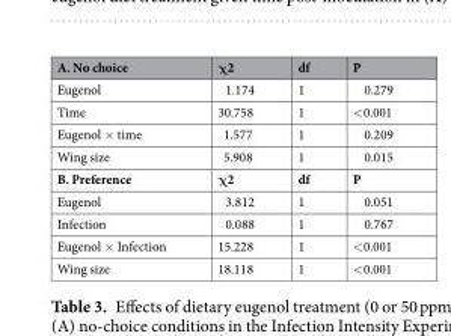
<table><thead><tr><td>A. No choice</td><td>χ2</td><td>df</td><td>P</td></tr></thead><tbody><tr><td>Eugenol</td><td>1.174</td><td>1</td><td>0.279</td></tr><tr><td>Time</td><td>30.758</td><td>1</td><td>&lt;0.001</td></tr><tr><td>Eugenol × time</td><td>1.577</td><td>1</td><td>0.209</td></tr><tr><td>Wing size</td><td>5.908</td><td>1</td><td>0.015</td></tr><tr><td>B. Preference</td><td>χ2</td><td>df</td><td>P</td></tr><tr><td>Eugenol</td><td>3.812</td><td>1</td><td>0.051</td></tr><tr><td>Infection</td><td>0.088</td><td>1</td><td>0.767</td></tr><tr><td>Eugenol × Infection</td><td>15.228</td><td>1</td><td>&lt;0.001</td></tr><tr><td>Wing size</td><td>18.118</td><td>1</td><td>&lt;0.001</td></tr></tbody></table>